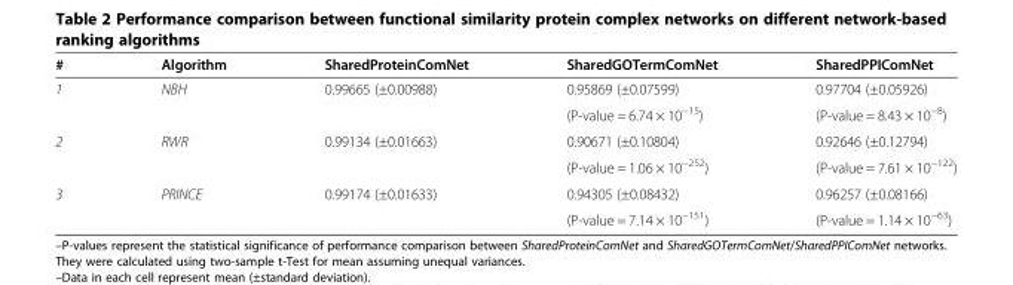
<table><thead><tr><td>#</td><td>Algorithm</td><td>SharedProteinComNet</td><td>SharedGOTermComNet</td><td>SharedPPIComNet</td></tr></thead><tbody><tr><td rowspan="2">1</td><td rowspan="2">NBH</td><td rowspan="2">0.99665 (±0.00988)</td><td>0.95869 (±0.07599)</td><td>0.97704 (±0.05926)</td></tr><tr><td>(P-value = 6.74 × 10<sup>−15</sup>)</td><td>(P-value = 8.43 × 10<sup>−8</sup>)</td></tr><tr><td rowspan="2">2</td><td rowspan="2">RWR</td><td rowspan="2">0.99134 (±0.01663)</td><td>0.90671 (±0.10804)</td><td>0.92646 (±0.12794)</td></tr><tr><td>(P-value = 1.06 × 10<sup>−252</sup>)</td><td>(P-value = 7.61 × 10<sup>−122</sup>)</td></tr><tr><td rowspan="2">3</td><td rowspan="2">PRINCE</td><td rowspan="2">0.99174 (±0.01633)</td><td>0.94305 (±0.08432)</td><td>0.96257 (±0.08166)</td></tr><tr><td>(P-value = 7.14 × 10<sup>−151</sup>)</td><td>(P-value = 1.14 × 10<sup>−63</sup>)</td></tr></tbody></table>